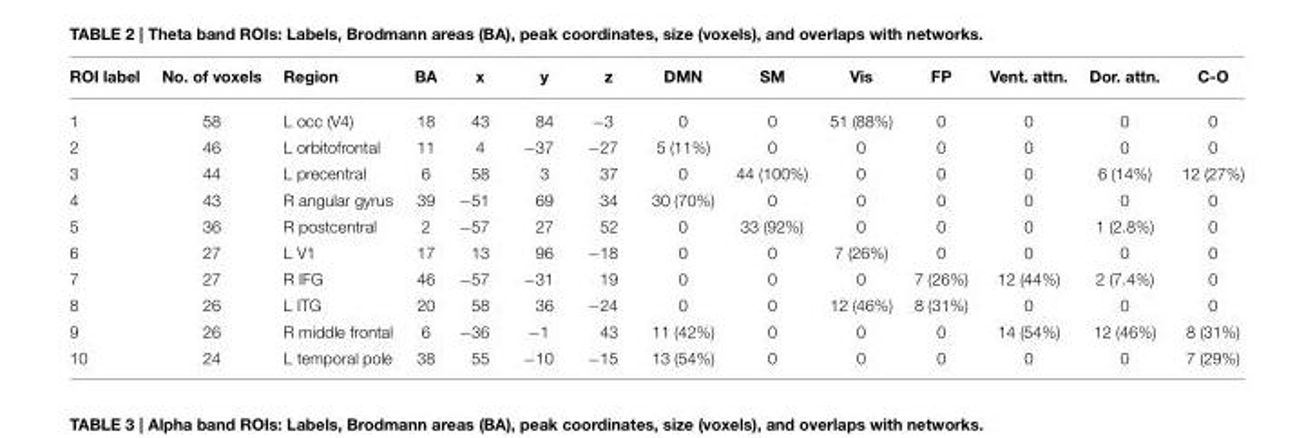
<table><thead><tr><td>ROI label</td><td>No. of voxels</td><td>Region</td><td>BA</td><td>x</td><td>y</td><td>z</td><td>DMN</td><td>SM</td><td>Vis</td><td>FP</td><td>Vent. attn.</td><td>Dor. attn.</td><td>C-O</td></tr></thead><tbody><tr><td>1</td><td>58</td><td>L occ (V4)</td><td>18</td><td>43</td><td>84</td><td>−3</td><td>0</td><td>0</td><td>51 (88%)</td><td>0</td><td>0</td><td>0</td><td>0</td></tr><tr><td>2</td><td>46</td><td>L orbitofrontal</td><td>11</td><td>4</td><td>−37</td><td>−27</td><td>5 (11%)</td><td>0</td><td>0</td><td>0</td><td>0</td><td>0</td><td>0</td></tr><tr><td>3</td><td>44</td><td>L precentral</td><td>6</td><td>58</td><td>3</td><td>37</td><td>0</td><td>44 (100%)</td><td>0</td><td>0</td><td>0</td><td>6 (14%)</td><td>12 (27%)</td></tr><tr><td>4</td><td>43</td><td>R angular gyrus</td><td>39</td><td>−51</td><td>69</td><td>34</td><td>30 (70%)</td><td>0</td><td>0</td><td>0</td><td>0</td><td>0</td><td>0</td></tr><tr><td>5</td><td>36</td><td>R postcentral</td><td>2</td><td>−57</td><td>27</td><td>52</td><td>0</td><td>33 (92%)</td><td>0</td><td>0</td><td>0</td><td>1 (2.8%)</td><td>0</td></tr><tr><td>6</td><td>27</td><td>L V1</td><td>17</td><td>13</td><td>96</td><td>−18</td><td>0</td><td>0</td><td>7 (26%)</td><td>0</td><td>0</td><td>0</td><td>0</td></tr><tr><td>7</td><td>27</td><td>R IFG</td><td>46</td><td>−57</td><td>−31</td><td>19</td><td>0</td><td>0</td><td>0</td><td>7 (26%)</td><td>12 (44%)</td><td>2 (7.4%)</td><td>0</td></tr><tr><td>8</td><td>26</td><td>L ITG</td><td>20</td><td>58</td><td>36</td><td>−24</td><td>0</td><td>0</td><td>12 (46%)</td><td>8 (31%)</td><td>0</td><td>0</td><td>0</td></tr><tr><td>9</td><td>26</td><td>R middle frontal</td><td>6</td><td>−36</td><td>−1</td><td>43</td><td>11 (42%)</td><td>0</td><td>0</td><td>0</td><td>14 (54%)</td><td>12 (46%)</td><td>8 (31%)</td></tr><tr><td>10</td><td>24</td><td>L temporal pole</td><td>38</td><td>55</td><td>−10</td><td>−15</td><td>13 (54%)</td><td>0</td><td>0</td><td>0</td><td>0</td><td>0</td><td>7 (29%)</td></tr></tbody></table>